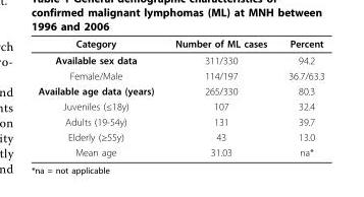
<table><thead><tr><td>Category</td><td>Number of ML cases</td><td>Percent</td></tr></thead><tbody><tr><td>Available sex data</td><td>311/330</td><td>94.2</td></tr><tr><td>Female/Male</td><td>114/197</td><td>36.7/63.3</td></tr><tr><td>Available age data (years)</td><td>265/330</td><td>80.3</td></tr><tr><td>Juveniles (≤18y)</td><td>107</td><td>32.4</td></tr><tr><td>Adults (19-54y)</td><td>131</td><td>39.7</td></tr><tr><td>Elderly (≥55y)</td><td>43</td><td>13.0</td></tr><tr><td>Mean age</td><td>31.03</td><td>na*</td></tr></tbody></table>